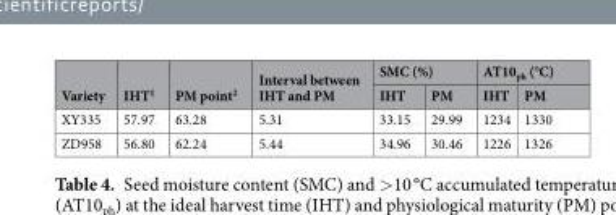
<table><thead><tr><td rowspan="2">Variety</td><td rowspan="2">IHT<sup>1</sup></td><td rowspan="2">PM point<sup>2</sup></td><td rowspan="2">Interval between IHT and PM</td><td colspan="2">SMC (%)</td><td colspan="2">AT10<sub>ph</sub> (°C)</td></tr><tr><td>IHT</td><td>PM</td><td>IHT</td><td>PM</td></tr></thead><tbody><tr><td>XY335</td><td>57.97</td><td>63.28</td><td>5.31</td><td>33.15</td><td>29.99</td><td>1234</td><td>1330</td></tr><tr><td>ZD958</td><td>56.80</td><td>62.24</td><td>5.44</td><td>34.96</td><td>30.46</td><td>1226</td><td>1326</td></tr></tbody></table>